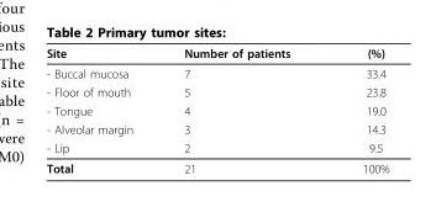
<table><thead><tr><td>Site</td><td>Number of patients</td><td>(%)</td></tr></thead><tbody><tr><td>- Buccal mucosa</td><td>7</td><td>33.4</td></tr><tr><td>- Floor of mouth</td><td>5</td><td>23.8</td></tr><tr><td>- Tongue</td><td>4</td><td>19.0</td></tr><tr><td>- Alveolar margin</td><td>3</td><td>14.3</td></tr><tr><td>- Lip</td><td>2</td><td>9.5</td></tr><tr><td>Total</td><td>21</td><td>100%</td></tr></tbody></table>